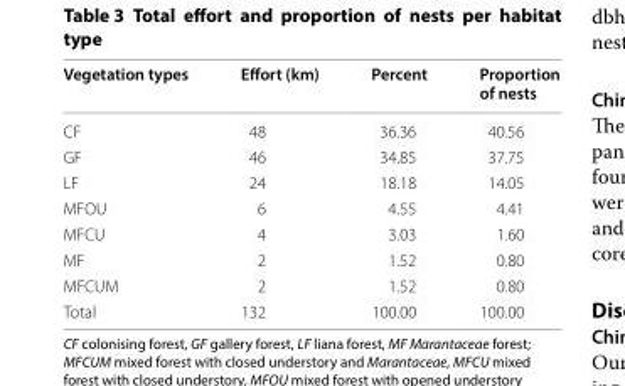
<table><thead><tr><td>Vegetation types</td><td>Effort (km)</td><td>Percent</td><td>Proportion of nests</td></tr></thead><tbody><tr><td>CF</td><td>48</td><td>36.36</td><td>40.56</td></tr><tr><td>GF</td><td>46</td><td>34.85</td><td>37.75</td></tr><tr><td>LF</td><td>24</td><td>18.18</td><td>14.05</td></tr><tr><td>MFOU</td><td>6</td><td>4.55</td><td>4.41</td></tr><tr><td>MFCU</td><td>4</td><td>3.03</td><td>1.60</td></tr><tr><td>MF</td><td>2</td><td>1.52</td><td>0.80</td></tr><tr><td>MFCUM</td><td>2</td><td>1.52</td><td>0.80</td></tr><tr><td>Total</td><td>132</td><td>100.00</td><td>100.00</td></tr></tbody></table>